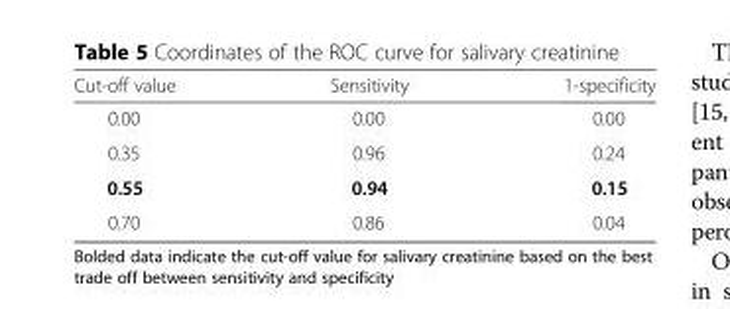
<table><thead><tr><td>Cut-off value</td><td>Sensitivity</td><td>1-specificity</td></tr></thead><tbody><tr><td>0.00</td><td>0.00</td><td>0.00</td></tr><tr><td>0.35</td><td>0.96</td><td>0.24</td></tr><tr><td>0.55</td><td>0.94</td><td>0.15</td></tr><tr><td>0.70</td><td>0.86</td><td>0.04</td></tr></tbody></table>